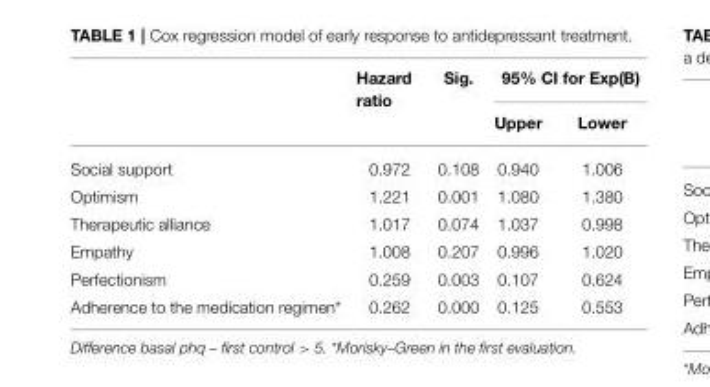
<table><thead><tr><td rowspan="2"></td><td rowspan="2">Hazard ratio</td><td rowspan="2">Sig.</td><td colspan="2">95% CI for Exp(B)</td></tr><tr><td>Upper</td><td>Lower</td></tr></thead><tbody><tr><td>Social support</td><td>0.972</td><td>0.108</td><td>0.940</td><td>1.006</td></tr><tr><td>Optimism</td><td>1.221</td><td>0.001</td><td>1.080</td><td>1.380</td></tr><tr><td>Therapeutic alliance</td><td>1.017</td><td>0.074</td><td>1.037</td><td>0.998</td></tr><tr><td>Empathy</td><td>1.008</td><td>0.207</td><td>0.996</td><td>1.020</td></tr><tr><td>Perfectionism</td><td>0.259</td><td>0.003</td><td>0.107</td><td>0.624</td></tr><tr><td>Adherence to the medication regimen*</td><td>0.262</td><td>0.000</td><td>0.125</td><td>0.553</td></tr></tbody></table>